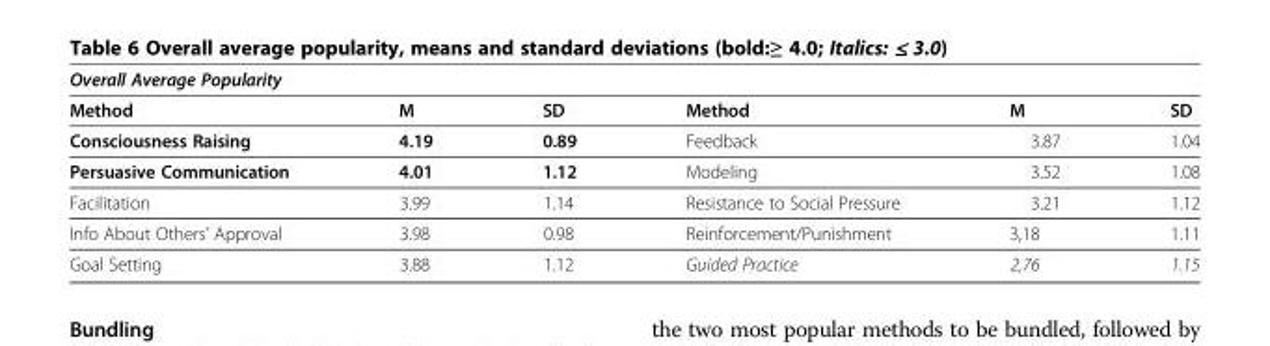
<table><thead><tr><td colspan="6">Overall Average Popularity</td></tr><tr><td>Method</td><td>M</td><td>SD</td><td>Method</td><td>M</td><td>SD</td></tr></thead><tbody><tr><td>Consciousness Raising</td><td>4.19</td><td>0.89</td><td>Feedback</td><td>3.87</td><td>1.04</td></tr><tr><td>Persuasive Communication</td><td>4.01</td><td>1.12</td><td>Modeling</td><td>3.52</td><td>1.08</td></tr><tr><td>Facilitation</td><td>3.99</td><td>1.14</td><td>Resistance to Social Pressure</td><td>3.21</td><td>1.12</td></tr><tr><td>Info About Others&#x27; Approval</td><td>3.98</td><td>0.98</td><td>Reinforcement/Punishment</td><td>3,18</td><td>1.11</td></tr><tr><td>Goal Setting</td><td>3.88</td><td>1.12</td><td>Guided Practice</td><td>2,76</td><td>1.15</td></tr></tbody></table>